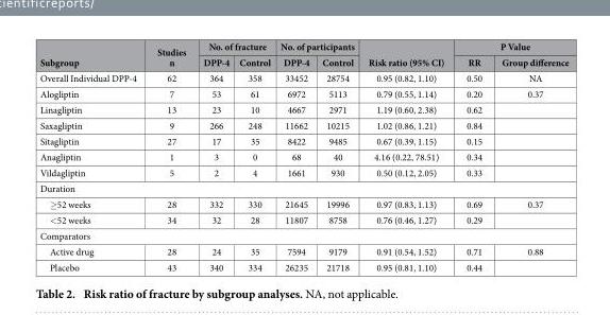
<table><thead><tr><td rowspan="2">Subgroup</td><td rowspan="2">Studies n</td><td colspan="2">No. of fracture</td><td colspan="2">No. of participants</td><td rowspan="2">Risk ratio (95% CI)</td><td colspan="2">P Value</td></tr><tr><td>DPP-4</td><td>Control</td><td>DPP-4</td><td>Control</td><td>RR</td><td>Group difference</td></tr></thead><tbody><tr><td>Overall Individual DPP-4</td><td>62</td><td>364</td><td>358</td><td>33452</td><td>28754</td><td>0.95 (0.82, 1.10)</td><td>0.50</td><td>NA</td></tr><tr><td>Alogliptin</td><td>7</td><td>53</td><td>61</td><td>6972</td><td>5113</td><td>0.79 (0.55, 1.14)</td><td>0.20</td><td>0.37</td></tr><tr><td>Linagliptin</td><td>13</td><td>23</td><td>10</td><td>4667</td><td>2971</td><td>1.19 (0.60, 2.38)</td><td>0.62</td><td></td></tr><tr><td>Saxagliptin</td><td>9</td><td>266</td><td>248</td><td>11662</td><td>10215</td><td>1.02 (0.86, 1.21)</td><td>0.84</td><td></td></tr><tr><td>Sitagliptin</td><td>27</td><td>17</td><td>35</td><td>8422</td><td>9485</td><td>0.67 (0.39, 1.15)</td><td>0.15</td><td></td></tr><tr><td>Anagliptin</td><td>1</td><td>3</td><td>0</td><td>68</td><td>40</td><td>4.16 (0.22, 78.51)</td><td>0.34</td><td></td></tr><tr><td>Vildagliptin</td><td>5</td><td>2</td><td>4</td><td>1661</td><td>930</td><td>0.50 (0.12, 2.05)</td><td>0.33</td><td></td></tr><tr><td colspan="9">Duration</td></tr><tr><td>≥ 52 weeks</td><td>28</td><td>332</td><td>330</td><td>21645</td><td>19996</td><td>0.97 (0.83, 1.13)</td><td>0.69</td><td>0.37</td></tr><tr><td>&lt; 52 weeks</td><td>34</td><td>32</td><td>28</td><td>11807</td><td>8758</td><td>0.76 (0.46, 1.27)</td><td>0.29</td><td></td></tr><tr><td colspan="9">Comparators</td></tr><tr><td>Active drug</td><td>28</td><td>24</td><td>35</td><td>7594</td><td>9179</td><td>0.91 (0.54, 1.52)</td><td>0.71</td><td>0.88</td></tr><tr><td>Placebo</td><td>43</td><td>340</td><td>334</td><td>26235</td><td>21718</td><td>0.95 (0.81, 1.10)</td><td>0.44</td><td></td></tr></tbody></table>